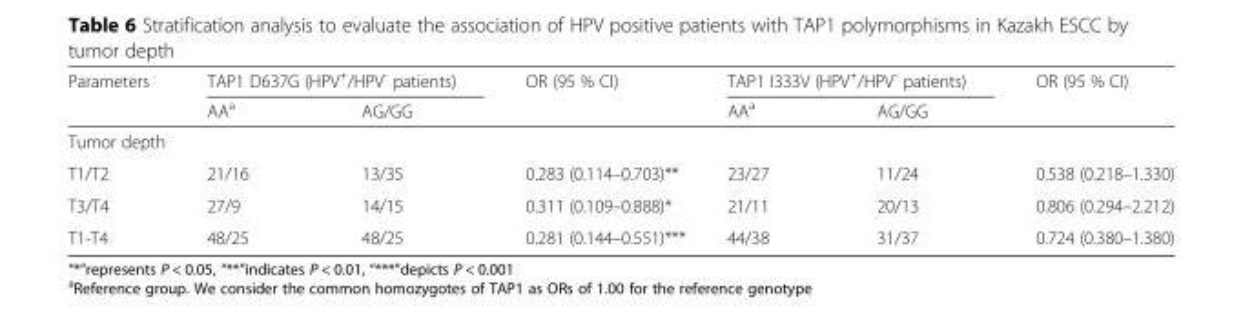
<table><thead><tr><td rowspan="2">Parameters</td><td colspan="2">TAP1 D637G (HPV<sup>+</sup>/HPV<sup>-</sup> patients)</td><td rowspan="2">OR (95 % CI)</td><td colspan="2">TAP1 I333V (HPV<sup>+</sup>/HPV<sup>-</sup> patients)</td><td rowspan="2">OR (95 % CI)</td></tr><tr><td>AA<sup>a</sup></td><td>AG/GG</td><td>AA<sup>a</sup></td><td>AG/GG</td></tr></thead><tbody><tr><td colspan="7">Tumor depth</td></tr><tr><td>T1/T2</td><td>21/16</td><td>13/35</td><td>0.283 (0.114–0.703)**</td><td>23/27</td><td>11/24</td><td>0.538 (0.218–1.330)</td></tr><tr><td>T3/T4</td><td>27/9</td><td>14/15</td><td>0.311 (0.109–0.888)*</td><td>21/11</td><td>20/13</td><td>0.806 (0.294–2.212)</td></tr><tr><td>T1-T4</td><td>48/25</td><td>48/25</td><td>0.281 (0.144–0.551)***</td><td>44/38</td><td>31/37</td><td>0.724 (0.380–1.380)</td></tr></tbody></table>